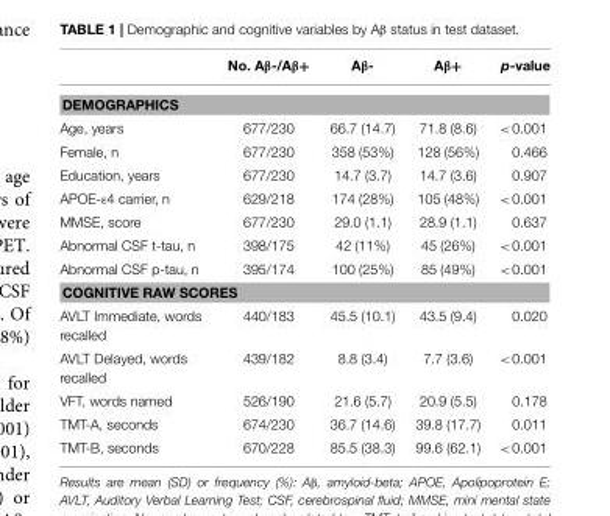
<table><thead><tr><td></td><td>No. Aβ-/Aβ+</td><td>Aβ-</td><td>Aβ+</td><td>p-value</td></tr></thead><tbody><tr><td colspan="5">DEMOGRAPHICS</td></tr><tr><td>Age, years</td><td>677/230</td><td>66.7 (14.7)</td><td>71.8 (8.6)</td><td>&lt;0.001</td></tr><tr><td>Female, n</td><td>677/230</td><td>358 (53%)</td><td>128 (56%)</td><td>0.466</td></tr><tr><td>Education, years</td><td>677/230</td><td>14.7 (3.7)</td><td>14.7 (3.6)</td><td>0.907</td></tr><tr><td>APOE-ε4 carrier, n</td><td>629/218</td><td>174 (28%)</td><td>105 (48%)</td><td>&lt;0.001</td></tr><tr><td>MMSE, score</td><td>677/230</td><td>29.0 (1.1)</td><td>28.9 (1.1)</td><td>0.637</td></tr><tr><td>Abnormal CSF t-tau, n</td><td>398/175</td><td>42 (11%)</td><td>45 (26%)</td><td>&lt;0.001</td></tr><tr><td>Abnormal CSF p-tau, n</td><td>395/174</td><td>100 (25%)</td><td>85 (49%)</td><td>&lt;0.001</td></tr><tr><td colspan="5">COGNITIVE RAW SCORES</td></tr><tr><td>AVLT Immediate, words recalled</td><td>440/183</td><td>45.5 (10.1)</td><td>43.5 (9.4)</td><td>0.020</td></tr><tr><td>AVLT Delayed, words recalled</td><td>439/182</td><td>8.8 (3.4)</td><td>7.7 (3.6)</td><td>&lt;0.001</td></tr><tr><td>VFT, words named</td><td>526/190</td><td>21.6 (5.7)</td><td>20.9 (5.5)</td><td>0.178</td></tr><tr><td>TMT-A, seconds</td><td>674/230</td><td>36.7 (14.6)</td><td>39.8 (17.7)</td><td>0.011</td></tr><tr><td>TMT-B, seconds</td><td>670/228</td><td>85.5 (38.3)</td><td>99.6 (62.1)</td><td>&lt;0.001</td></tr></tbody></table>